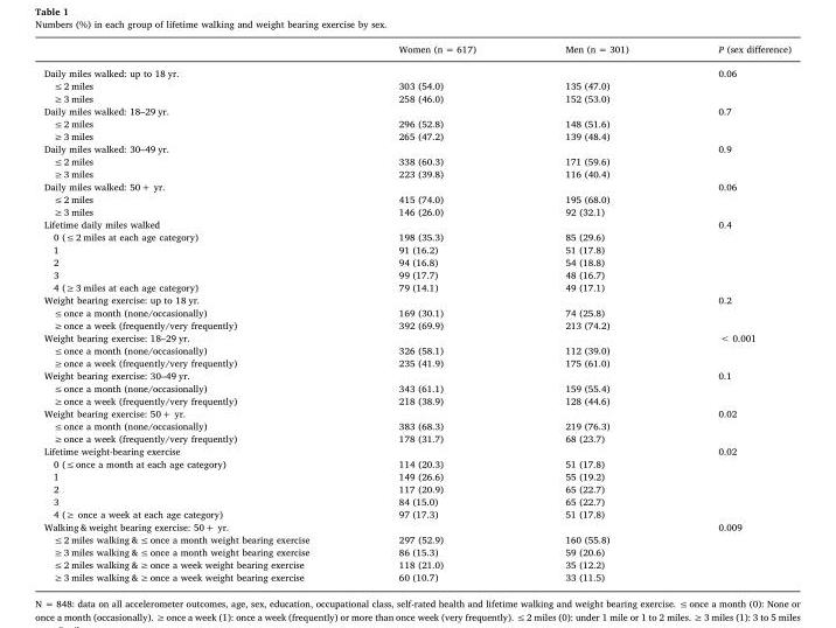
<table><thead><tr><td></td><td>Women (n = 617)</td><td>Men (n = 301)</td><td>P (sex difference)</td></tr></thead><tbody><tr><td>Daily miles walked: up to 18 yr.</td><td></td><td></td><td>0.06</td></tr><tr><td>≤2 miles</td><td>303 (54.0)</td><td>135 (47.0)</td><td></td></tr><tr><td>≥3 miles</td><td>258 (46.0)</td><td>152 (53.0)</td><td></td></tr><tr><td>Daily miles walked: 18–29 yr.</td><td></td><td></td><td>0.7</td></tr><tr><td>≤2 miles</td><td>296 (52.8)</td><td>148 (51.6)</td><td></td></tr><tr><td>≥3 miles</td><td>265 (47.2)</td><td>139 (48.4)</td><td></td></tr><tr><td>Daily miles walked: 30–49 yr.</td><td></td><td></td><td>0.9</td></tr><tr><td>≤2 miles</td><td>338 (60.3)</td><td>171 (59.6)</td><td></td></tr><tr><td>≥3 miles</td><td>223 (39.8)</td><td>116 (40.4)</td><td></td></tr><tr><td>Daily miles walked: 50+ yr.</td><td></td><td></td><td>0.06</td></tr><tr><td>≤2 miles</td><td>415 (74.0)</td><td>195 (68.0)</td><td></td></tr><tr><td>≥3 miles</td><td>146 (26.0)</td><td>92 (32.1)</td><td></td></tr><tr><td>Lifetime daily miles walked</td><td></td><td></td><td>0.4</td></tr><tr><td>0 (≤2 miles at each age category)</td><td>198 (35.3)</td><td>85 (29.6)</td><td></td></tr><tr><td>1</td><td>91 (16.2)</td><td>51 (17.8)</td><td></td></tr><tr><td>2</td><td>94 (16.8)</td><td>54 (18.8)</td><td></td></tr><tr><td>3</td><td>99 (17.7)</td><td>48 (16.7)</td><td></td></tr><tr><td>4 (≥3 miles at each age category)</td><td>79 (14.1)</td><td>49 (17.1)</td><td></td></tr><tr><td>Weight bearing exercise: up to 18 yr.</td><td></td><td></td><td>0.2</td></tr><tr><td>≤once a month (none/occasionally)</td><td>169 (30.1)</td><td>74 (25.8)</td><td></td></tr><tr><td>≥once a week (frequently/very frequently)</td><td>392 (69.9)</td><td>213 (74.2)</td><td></td></tr><tr><td>Weight bearing exercise: 18–29 yr.</td><td></td><td></td><td>&lt; 0.001</td></tr><tr><td>≤once a month (none/occasionally)</td><td>326 (58.1)</td><td>112 (39.0)</td><td></td></tr><tr><td>≥once a week (frequently/very frequently)</td><td>235 (41.9)</td><td>175 (61.0)</td><td></td></tr><tr><td>Weight bearing exercise: 30–49 yr.</td><td></td><td></td><td>0.1</td></tr><tr><td>≤once a month (none/occasionally)</td><td>343 (61.1)</td><td>159 (55.4)</td><td></td></tr><tr><td>≥once a week (frequently/very frequently)</td><td>218 (38.9)</td><td>128 (44.6)</td><td></td></tr><tr><td>Weight bearing exercise: 50+ yr.</td><td></td><td></td><td>0.02</td></tr><tr><td>≤once a month (none/occasionally)</td><td>383 (68.3)</td><td>219 (76.3)</td><td></td></tr><tr><td>≥once a week (frequently/very frequently)</td><td>178 (31.7)</td><td>68 (23.7)</td><td></td></tr><tr><td>Lifetime weight-bearing exercise</td><td></td><td></td><td>0.02</td></tr><tr><td>0 (≤once a month at each age category)</td><td>114 (20.3)</td><td>51 (17.8)</td><td></td></tr><tr><td>1</td><td>149 (26.6)</td><td>55 (19.2)</td><td></td></tr><tr><td>2</td><td>117 (20.9)</td><td>65 (22.7)</td><td></td></tr><tr><td>3</td><td>84 (15.0)</td><td>65 (22.7)</td><td></td></tr><tr><td>4 (≥ once a week at each age category)</td><td>97 (17.3)</td><td>51 (17.8)</td><td></td></tr><tr><td>Walking &amp; weight bearing exercise: 50+ yr.</td><td></td><td></td><td>0.009</td></tr><tr><td>≤2 miles walking &amp; ≤once a month weight bearing exercise</td><td>297 (52.9)</td><td>160 (55.8)</td><td></td></tr><tr><td>≥3 miles walking &amp; ≤once a month weight bearing exercise</td><td>86 (15.3)</td><td>59 (20.6)</td><td></td></tr><tr><td>≤2 miles walking &amp; ≥once a week weight bearing exercise</td><td>118 (21.0)</td><td>35 (12.2)</td><td></td></tr><tr><td>≥3 miles walking &amp; ≥once a week weight bearing exercise</td><td>60 (10.7)</td><td>33 (11.5)</td><td></td></tr></tbody></table>